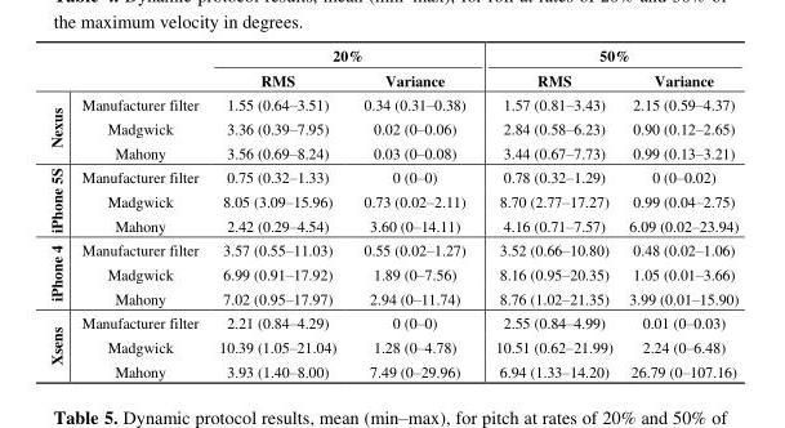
<table><thead><tr><td rowspan="2"></td><td rowspan="2"></td><td colspan="2">20%</td><td colspan="2">50%</td></tr><tr><td>RMS</td><td>Variance</td><td>RMS</td><td>Variance</td></tr></thead><tbody><tr><td rowspan="3">Nexus</td><td>Manufacturer filter</td><td>1.55 (0.64–3.51)</td><td>0.34 (0.31–0.38)</td><td>1.57 (0.81–3.43)</td><td>2.15 (0.59–4.37)</td></tr><tr><td>Madgwick</td><td>3.36 (0.39–7.95)</td><td>0.02 (0–0.06)</td><td>2.84 (0.58–6.23)</td><td>0.90 (0.12–2.65)</td></tr><tr><td>Mahony</td><td>3.56 (0.69–8.24)</td><td>0.03 (0–0.08)</td><td>3.44 (0.67–7.73)</td><td>0.99 (0.13–3.21)</td></tr><tr><td rowspan="3">iPhone 5S</td><td>Manufacturer filter</td><td>0.75 (0.32–1.33)</td><td>0 (0–0)</td><td>0.78 (0.32–1.29)</td><td>0 (0–0.02)</td></tr><tr><td>Madgwick</td><td>8.05 (3.09–15.96)</td><td>0.73 (0.02–2.11)</td><td>8.70 (2.77–17.27)</td><td>0.99 (0.04–2.75)</td></tr><tr><td>Mahony</td><td>2.42 (0.29–4.54)</td><td>3.60 (0–14.11)</td><td>4.16 (0.71–7.57)</td><td>6.09 (0.02–23.94)</td></tr><tr><td rowspan="3">iPhone 4</td><td>Manufacturer filter</td><td>3.57 (0.55–11.03)</td><td>0.55 (0.02–1.27)</td><td>3.52 (0.66–10.80)</td><td>0.48 (0.02–1.06)</td></tr><tr><td>Madgwick</td><td>6.99 (0.91–17.92)</td><td>1.89 (0–7.56)</td><td>8.16 (0.95–20.35)</td><td>1.05 (0.01–3.66)</td></tr><tr><td>Mahony</td><td>7.02 (0.95–17.97)</td><td>2.94 (0–11.74)</td><td>8.76 (1.02–21.35)</td><td>3.99 (0.01–15.90)</td></tr><tr><td rowspan="3">Xsens</td><td>Manufacturer filter</td><td>2.21 (0.84–4.29)</td><td>0 (0–0)</td><td>2.55 (0.84–4.99)</td><td>0.01 (0–0.03)</td></tr><tr><td>Madgwick</td><td>10.39 (1.05–21.04)</td><td>1.28 (0–4.78)</td><td>10.51 (0.62–21.99)</td><td>2.24 (0–6.48)</td></tr><tr><td>Mahony</td><td>3.93 (1.40–8.00)</td><td>7.49 (0–29.96)</td><td>6.94 (1.33–14.20)</td><td>26.79 (0–107.16)</td></tr></tbody></table>